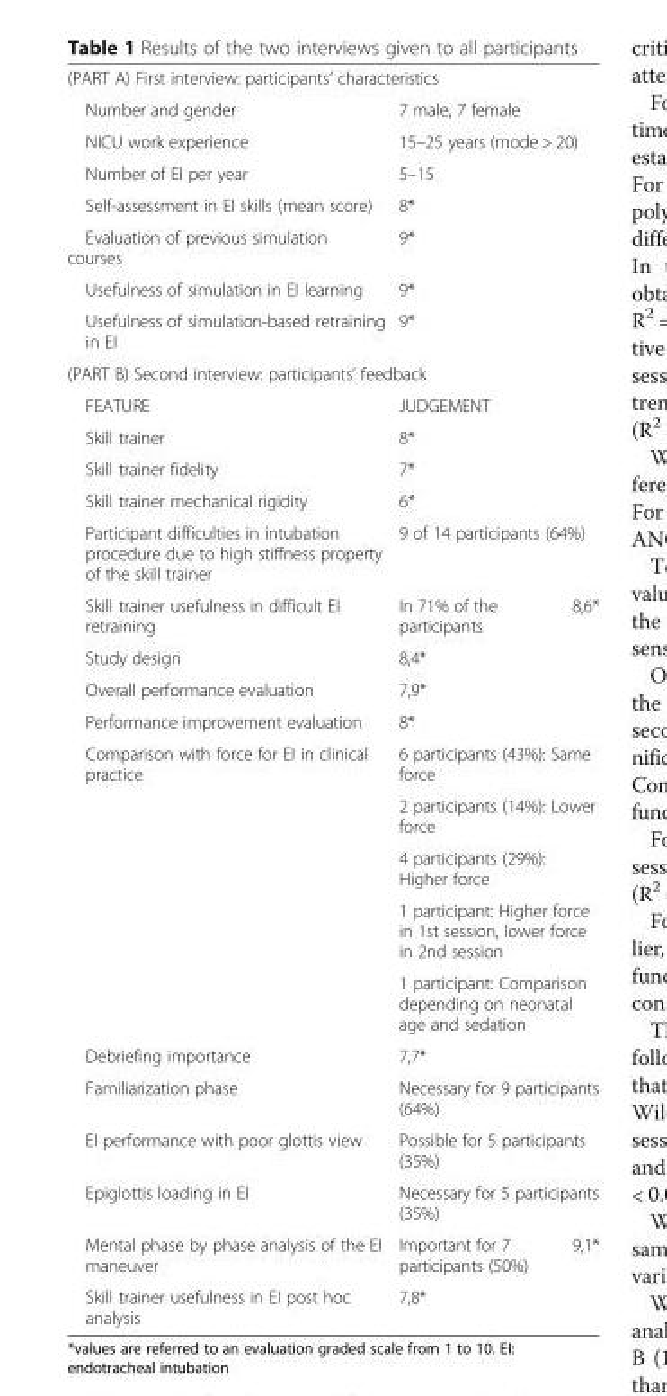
<table><tbody><tr><td colspan="3">(PART A) First interview: participants’ characteristics</td></tr><tr><td>Number and gender</td><td colspan="2">7 male, 7 female</td></tr><tr><td>NICU work experience</td><td colspan="2">15–25 years (mode &gt; 20)</td></tr><tr><td>Number of EI per year</td><td colspan="2">5–15</td></tr><tr><td>Self-assessment in EI skills (mean score)</td><td colspan="2">8*</td></tr><tr><td>Evaluation of previous simulation courses</td><td colspan="2">9*</td></tr><tr><td>Usefulness of simulation in EI learning</td><td colspan="2">9*</td></tr><tr><td>Usefulness of simulation-based retraining in EI</td><td colspan="2">9*</td></tr><tr><td colspan="3">(PART B) Second interview: participants’ feedback</td></tr><tr><td>FEATURE</td><td colspan="2">JUDGEMENT</td></tr><tr><td>Skill trainer</td><td colspan="2">8*</td></tr><tr><td>Skill trainer fidelity</td><td colspan="2">7*</td></tr><tr><td>Skill trainer mechanical rigidity</td><td colspan="2">6*</td></tr><tr><td>Participant difficulties in intubation procedure due to high stiffness property of the skill trainer</td><td colspan="2">9 of 14 participants (64%)</td></tr><tr><td>Skill trainer usefulness in difficult EI retraining</td><td>In 71% of the participants</td><td>8,6*</td></tr><tr><td>Study design</td><td colspan="2">8,4*</td></tr><tr><td>Overall performance evaluation</td><td colspan="2">7,9*</td></tr><tr><td>Performance improvement evaluation</td><td colspan="2">8*</td></tr><tr><td rowspan="5">Comparison with force for EI in clinical practice</td><td colspan="2">6 participants (43%): Same force</td></tr><tr><td colspan="2">2 participants (14%): Lower force</td></tr><tr><td colspan="2">4 participants (29%): Higher force</td></tr><tr><td colspan="2">1 participant: Higher force in 1st session, lower force in 2nd session</td></tr><tr><td colspan="2">1 participant: Comparison depending on neonatal age and sedation</td></tr><tr><td>Debriefing importance</td><td colspan="2">7,7*</td></tr><tr><td>Familiarization phase</td><td colspan="2">Necessary for 9 participants (64%)</td></tr><tr><td>EI performance with poor glottis view</td><td colspan="2">Possible for 5 participants (35%)</td></tr><tr><td>Epiglottis loading in EI</td><td colspan="2">Necessary for 5 participants (35%)</td></tr><tr><td>Mental phase by phase analysis of the EI maneuver</td><td>Important for 7 participants (50%)</td><td>9,1*</td></tr><tr><td>Skill trainer usefulness in EI post hoc analysis</td><td colspan="2">7,8*</td></tr></tbody></table>